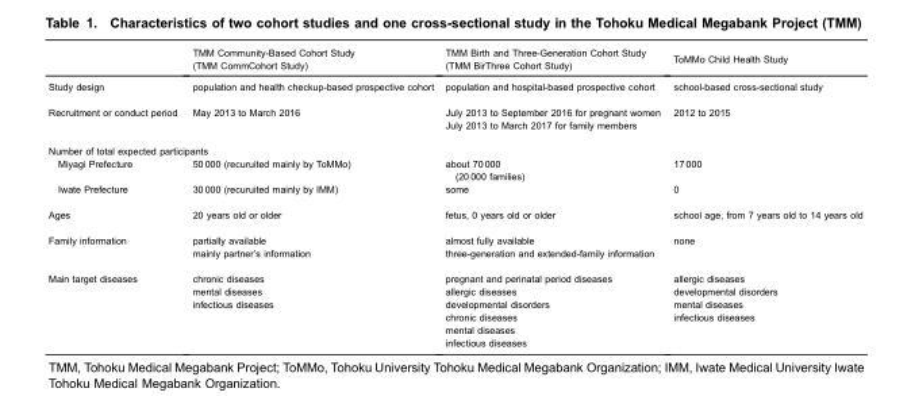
<table><thead><tr><td></td><td>TMM Community-Based Cohort Study (TMM CommCohort Study)</td><td>TMM Birth and Three-Generation Cohort Study (TMM BirThree Cohort Study)</td><td>ToMMo Child Health Study</td></tr></thead><tbody><tr><td>Study design</td><td>population and health checkup-based prospective cohort</td><td>population and hospital-based prospective cohort</td><td>school-based cross-sectional study</td></tr><tr><td rowspan="2">Recruitment or conduct period</td><td>May 2013 to March 2016</td><td>July 2013 to September 2016 for pregnant women</td><td>2012 to 2015</td></tr><tr><td></td><td>July 2013 to March 2017 for family members</td><td></td></tr><tr><td colspan="4">Number of total expected participants</td></tr><tr><td rowspan="2">Miyagi Prefecture</td><td>50 000 (recuruited mainly by ToMMo)</td><td>about 70 000</td><td>17 000</td></tr><tr><td></td><td>(20 000 families)</td><td></td></tr><tr><td>Iwate Prefecture</td><td>30 000 (recuruited mainly by IMM)</td><td>some</td><td>0</td></tr><tr><td>Ages</td><td>20 years old or older</td><td>fetus, 0 years old or older</td><td>school age, from 7 years old to 14 years old</td></tr><tr><td rowspan="2">Family information</td><td>partially available</td><td>almost fully available</td><td>none</td></tr><tr><td>mainly partner’s information</td><td>three-generation and extended-family information</td><td></td></tr><tr><td rowspan="6">Main target diseases</td><td>chronic diseases</td><td>pregnant and perinatal period diseases</td><td>allergic diseases</td></tr><tr><td>mental diseases</td><td>allergic diseases</td><td>developmental disorders</td></tr><tr><td>infectious diseases</td><td>developmental disorders</td><td>mental diseases</td></tr><tr><td></td><td>chronic diseases</td><td>infectious diseases</td></tr><tr><td></td><td>mental diseases</td><td></td></tr><tr><td></td><td>infectious diseases</td><td></td></tr></tbody></table>